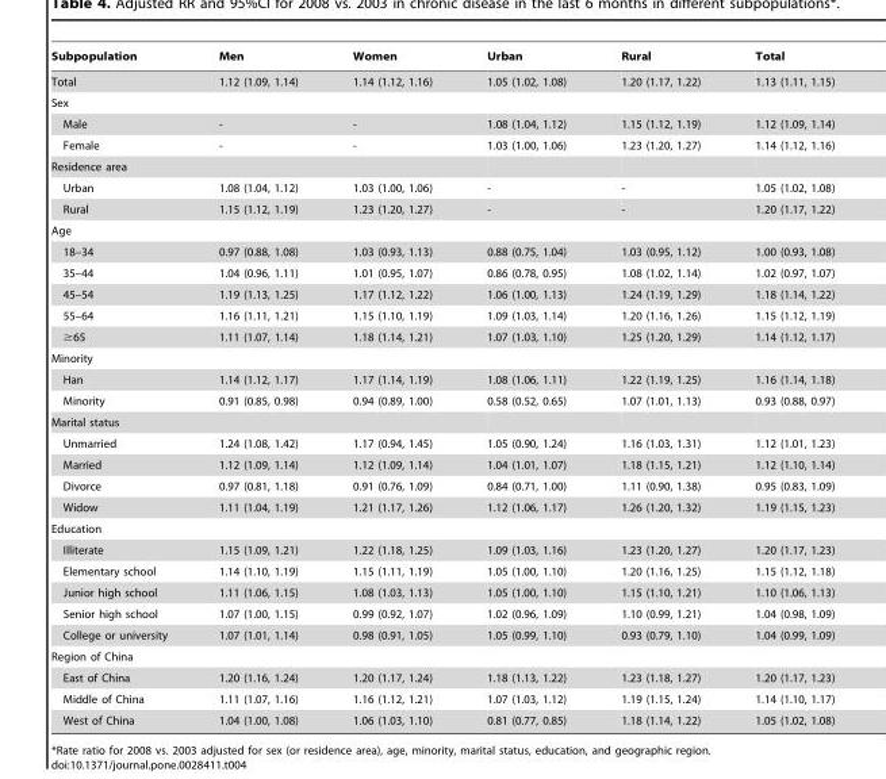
<table><thead><tr><td>Subpopulation</td><td>Men</td><td>Women</td><td>Urban</td><td>Rural</td><td>Total</td></tr></thead><tbody><tr><td>Total</td><td>1.12 (1.09, 1.14)</td><td>1.14 (1.12, 1.16)</td><td>1.05 (1.02, 1.08)</td><td>1.20 (1.17, 1.22)</td><td>1.13 (1.11, 1.15)</td></tr><tr><td colspan="6">Sex</td></tr><tr><td>Male</td><td>-</td><td>-</td><td>1.08 (1.04, 1.12)</td><td>1.15 (1.12, 1.19)</td><td>1.12 (1.09, 1.14)</td></tr><tr><td>Female</td><td>-</td><td>-</td><td>1.03 (1.00, 1.06)</td><td>1.23 (1.20, 1.27)</td><td>1.14 (1.12, 1.16)</td></tr><tr><td colspan="6">Residence area</td></tr><tr><td>Urban</td><td>1.08 (1.04, 1.12)</td><td>1.03 (1.00, 1.06)</td><td>-</td><td>-</td><td>1.05 (1.02, 1.08)</td></tr><tr><td>Rural</td><td>1.15 (1.12, 1.19)</td><td>1.23 (1.20, 1.27)</td><td>-</td><td>-</td><td>1.20 (1.17, 1.22)</td></tr><tr><td colspan="6">Age</td></tr><tr><td>18–34</td><td>0.97 (0.88, 1.08)</td><td>1.03 (0.93, 1.13)</td><td>0.88 (0.75, 1.04)</td><td>1.03 (0.95, 1.12)</td><td>1.00 (0.93, 1.08)</td></tr><tr><td>35–44</td><td>1.04 (0.96, 1.11)</td><td>1.01 (0.95, 1.07)</td><td>0.86 (0.78, 0.95)</td><td>1.08 (1.02, 1.14)</td><td>1.02 (0.97, 1.07)</td></tr><tr><td>45–54</td><td>1.19 (1.13, 1.25)</td><td>1.17 (1.12, 1.22)</td><td>1.06 (1.00, 1.13)</td><td>1.24 (1.19, 1.29)</td><td>1.18 (1.14, 1.22)</td></tr><tr><td>55–64</td><td>1.16 (1.11, 1.21)</td><td>1.15 (1.10, 1.19)</td><td>1.09 (1.03, 1.14)</td><td>1.20 (1.16, 1.26)</td><td>1.15 (1.12, 1.19)</td></tr><tr><td>≥65</td><td>1.11 (1.07, 1.14)</td><td>1.18 (1.14, 1.21)</td><td>1.07 (1.03, 1.10)</td><td>1.25 (1.20, 1.29)</td><td>1.14 (1.12, 1.17)</td></tr><tr><td colspan="6">Minority</td></tr><tr><td>Han</td><td>1.14 (1.12, 1.17)</td><td>1.17 (1.14, 1.19)</td><td>1.08 (1.06, 1.11)</td><td>1.22 (1.19, 1.25)</td><td>1.16 (1.14, 1.18)</td></tr><tr><td>Minority</td><td>0.91 (0.85, 0.98)</td><td>0.94 (0.89, 1.00)</td><td>0.58 (0.52, 0.65)</td><td>1.07 (1.01, 1.13)</td><td>0.93 (0.88, 0.97)</td></tr><tr><td colspan="6">Marital status</td></tr><tr><td>Unmarried</td><td>1.24 (1.08, 1.42)</td><td>1.17 (0.94, 1.45)</td><td>1.05 (0.90, 1.24)</td><td>1.16 (1.03, 1.31)</td><td>1.12 (1.01, 1.23)</td></tr><tr><td>Married</td><td>1.12 (1.09, 1.14)</td><td>1.12 (1.09, 1.14)</td><td>1.04 (1.01, 1.07)</td><td>1.18 (1.15, 1.21)</td><td>1.12 (1.10, 1.14)</td></tr><tr><td>Divorce</td><td>0.97 (0.81, 1.18)</td><td>0.91 (0.76, 1.09)</td><td>0.84 (0.71, 1.00)</td><td>1.11 (0.90, 1.38)</td><td>0.95 (0.83, 1.09)</td></tr><tr><td>Widow</td><td>1.11 (1.04, 1.19)</td><td>1.21 (1.17, 1.26)</td><td>1.12 (1.06, 1.17)</td><td>1.26 (1.20, 1.32)</td><td>1.19 (1.15, 1.23)</td></tr><tr><td colspan="6">Education</td></tr><tr><td>Illiterate</td><td>1.15 (1.09, 1.21)</td><td>1.22 (1.18, 1.25)</td><td>1.09 (1.03, 1.16)</td><td>1.23 (1.20, 1.27)</td><td>1.20 (1.17, 1.23)</td></tr><tr><td>Elementary school</td><td>1.14 (1.10, 1.19)</td><td>1.15 (1.11, 1.19)</td><td>1.05 (1.00, 1.10)</td><td>1.20 (1.16, 1.25)</td><td>1.15 (1.12, 1.18)</td></tr><tr><td>Junior high school</td><td>1.11 (1.06, 1.15)</td><td>1.08 (1.03, 1.13)</td><td>1.05 (1.00, 1.10)</td><td>1.15 (1.10, 1.21)</td><td>1.10 (1.06, 1.13)</td></tr><tr><td>Senior high school</td><td>1.07 (1.00, 1.15)</td><td>0.99 (0.92, 1.07)</td><td>1.02 (0.96, 1.09)</td><td>1.10 (0.99, 1.21)</td><td>1.04 (0.98, 1.09)</td></tr><tr><td>College or university</td><td>1.07 (1.01, 1.14)</td><td>0.98 (0.91, 1.05)</td><td>1.05 (0.99, 1.10)</td><td>0.93 (0.79, 1.10)</td><td>1.04 (0.99, 1.09)</td></tr><tr><td colspan="6">Region of China</td></tr><tr><td>East of China</td><td>1.20 (1.16, 1.24)</td><td>1.20 (1.17, 1.24)</td><td>1.18 (1.13, 1.22)</td><td>1.23 (1.18, 1.27)</td><td>1.20 (1.17, 1.23)</td></tr><tr><td>Middle of China</td><td>1.11 (1.07, 1.16)</td><td>1.16 (1.12, 1.21)</td><td>1.07 (1.03, 1.12)</td><td>1.19 (1.15, 1.24)</td><td>1.14 (1.10, 1.17)</td></tr><tr><td>West of China</td><td>1.04 (1.00, 1.08)</td><td>1.06 (1.03, 1.10)</td><td>0.81 (0.77, 0.85)</td><td>1.18 (1.14, 1.22)</td><td>1.05 (1.02, 1.08)</td></tr></tbody></table>